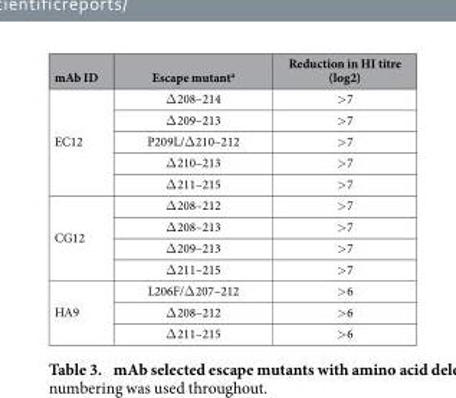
<table><thead><tr><td>mAb ID</td><td>Escape mutant<sup>a</sup></td><td>Reduction in HI titre (log2)</td></tr></thead><tbody><tr><td rowspan="5">EC12</td><td>Δ 208–214</td><td>&gt; 7</td></tr><tr><td>Δ 209–213</td><td>&gt; 7</td></tr><tr><td>P209L/Δ 210–212</td><td>&gt; 7</td></tr><tr><td>Δ 210–213</td><td>&gt; 7</td></tr><tr><td>Δ 211–215</td><td>&gt; 7</td></tr><tr><td rowspan="4">CG12</td><td>Δ 208–212</td><td>&gt; 7</td></tr><tr><td>Δ 208–213</td><td>&gt; 7</td></tr><tr><td>Δ 209–213</td><td>&gt; 7</td></tr><tr><td>Δ 211–215</td><td>&gt; 7</td></tr><tr><td rowspan="3">HA9</td><td>L206F/Δ 207–212</td><td>&gt; 6</td></tr><tr><td>Δ 208–212</td><td>&gt; 6</td></tr><tr><td>Δ 211–215</td><td>&gt; 6</td></tr></tbody></table>